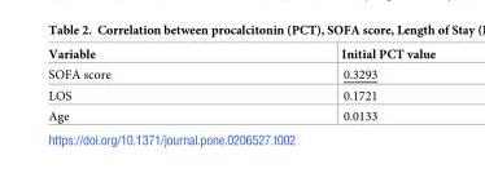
<table><thead><tr><td>Variable</td><td>Initial PCT value</td></tr></thead><tbody><tr><td>SOFA score</td><td>0.3293</td></tr><tr><td>LOS</td><td>0.1721</td></tr><tr><td>Age</td><td>0.0133</td></tr></tbody></table>